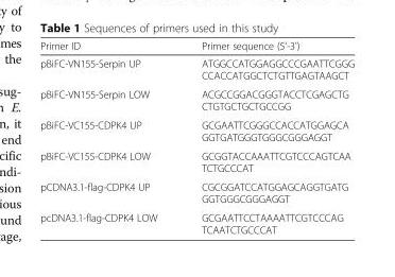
<table><thead><tr><td>Primer ID</td><td>Primer sequence (5&#x27;-3&#x27;)</td></tr></thead><tbody><tr><td>pBiFC-VN155-Serpin UP</td><td>ATGGCCATGGAGGCCCGAATTCGGG CCACCATGGCTCTGTTGAGTAAGCT</td></tr><tr><td>pBiFC-VN155-Serpin LOW</td><td>ACGCCGGACGGGTACCTCGAGCTG CTGTGCTGCTGCCGG</td></tr><tr><td>pBiFC-VC155-CDPK4 UP</td><td>GCGAATTCGGGCCACCATGGAGCA GGTGATGGGTGGGCGGGAGGT</td></tr><tr><td>pBiFC-VC155-CDPK4 LOW</td><td>GCGGTACCAAATTCGTCCCAGTCAA TCTGCCCAT</td></tr><tr><td>pCDNA3.1-flag-CDPK4 UP</td><td>CGCGGATCCATGGAGCAGGTGATG GGTGGGCGGGAGGT</td></tr><tr><td>pcDNA3.1-flag-CDPK4 LOW</td><td>GCGAATTCCTAAAATTCGTCCCAG TCAATCTGCCCAT</td></tr></tbody></table>